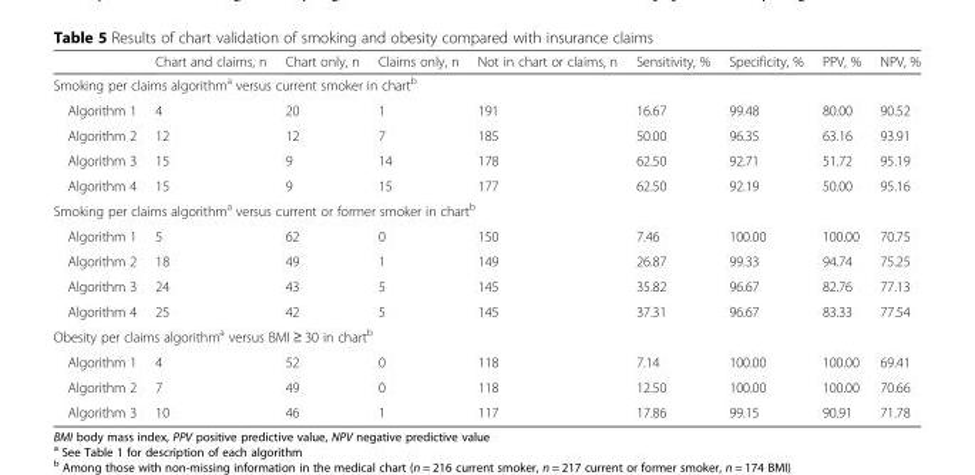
<table><thead><tr><td></td><td>Chart and claims, n</td><td>Chart only, n</td><td>Claims only, n</td><td>Not in chart or claims, n</td><td>Sensitivity, %</td><td>Specificity, %</td><td>PPV, %</td><td>NPV, %</td></tr></thead><tbody><tr><td colspan="9">Smoking per claims algorithm<sup>a</sup> versus current smoker in chart<sup>b</sup></td></tr><tr><td>Algorithm 1</td><td>4</td><td>20</td><td>1</td><td>191</td><td>16.67</td><td>99.48</td><td>80.00</td><td>90.52</td></tr><tr><td>Algorithm 2</td><td>12</td><td>12</td><td>7</td><td>185</td><td>50.00</td><td>96.35</td><td>63.16</td><td>93.91</td></tr><tr><td>Algorithm 3</td><td>15</td><td>9</td><td>14</td><td>178</td><td>62.50</td><td>92.71</td><td>51.72</td><td>95.19</td></tr><tr><td>Algorithm 4</td><td>15</td><td>9</td><td>15</td><td>177</td><td>62.50</td><td>92.19</td><td>50.00</td><td>95.16</td></tr><tr><td colspan="9">Smoking per claims algorithm<sup>a</sup> versus current or former smoker in chart<sup>b</sup></td></tr><tr><td>Algorithm 1</td><td>5</td><td>62</td><td>0</td><td>150</td><td>7.46</td><td>100.00</td><td>100.00</td><td>70.75</td></tr><tr><td>Algorithm 2</td><td>18</td><td>49</td><td>1</td><td>149</td><td>26.87</td><td>99.33</td><td>94.74</td><td>75.25</td></tr><tr><td>Algorithm 3</td><td>24</td><td>43</td><td>5</td><td>145</td><td>35.82</td><td>96.67</td><td>82.76</td><td>77.13</td></tr><tr><td>Algorithm 4</td><td>25</td><td>42</td><td>5</td><td>145</td><td>37.31</td><td>96.67</td><td>83.33</td><td>77.54</td></tr><tr><td colspan="9">Obesity per claims algorithm<sup>a</sup> versus BMI ≥ 30 in chart<sup>b</sup></td></tr><tr><td>Algorithm 1</td><td>4</td><td>52</td><td>0</td><td>118</td><td>7.14</td><td>100.00</td><td>100.00</td><td>69.41</td></tr><tr><td>Algorithm 2</td><td>7</td><td>49</td><td>0</td><td>118</td><td>12.50</td><td>100.00</td><td>100.00</td><td>70.66</td></tr><tr><td>Algorithm 3</td><td>10</td><td>46</td><td>1</td><td>117</td><td>17.86</td><td>99.15</td><td>90.91</td><td>71.78</td></tr></tbody></table>